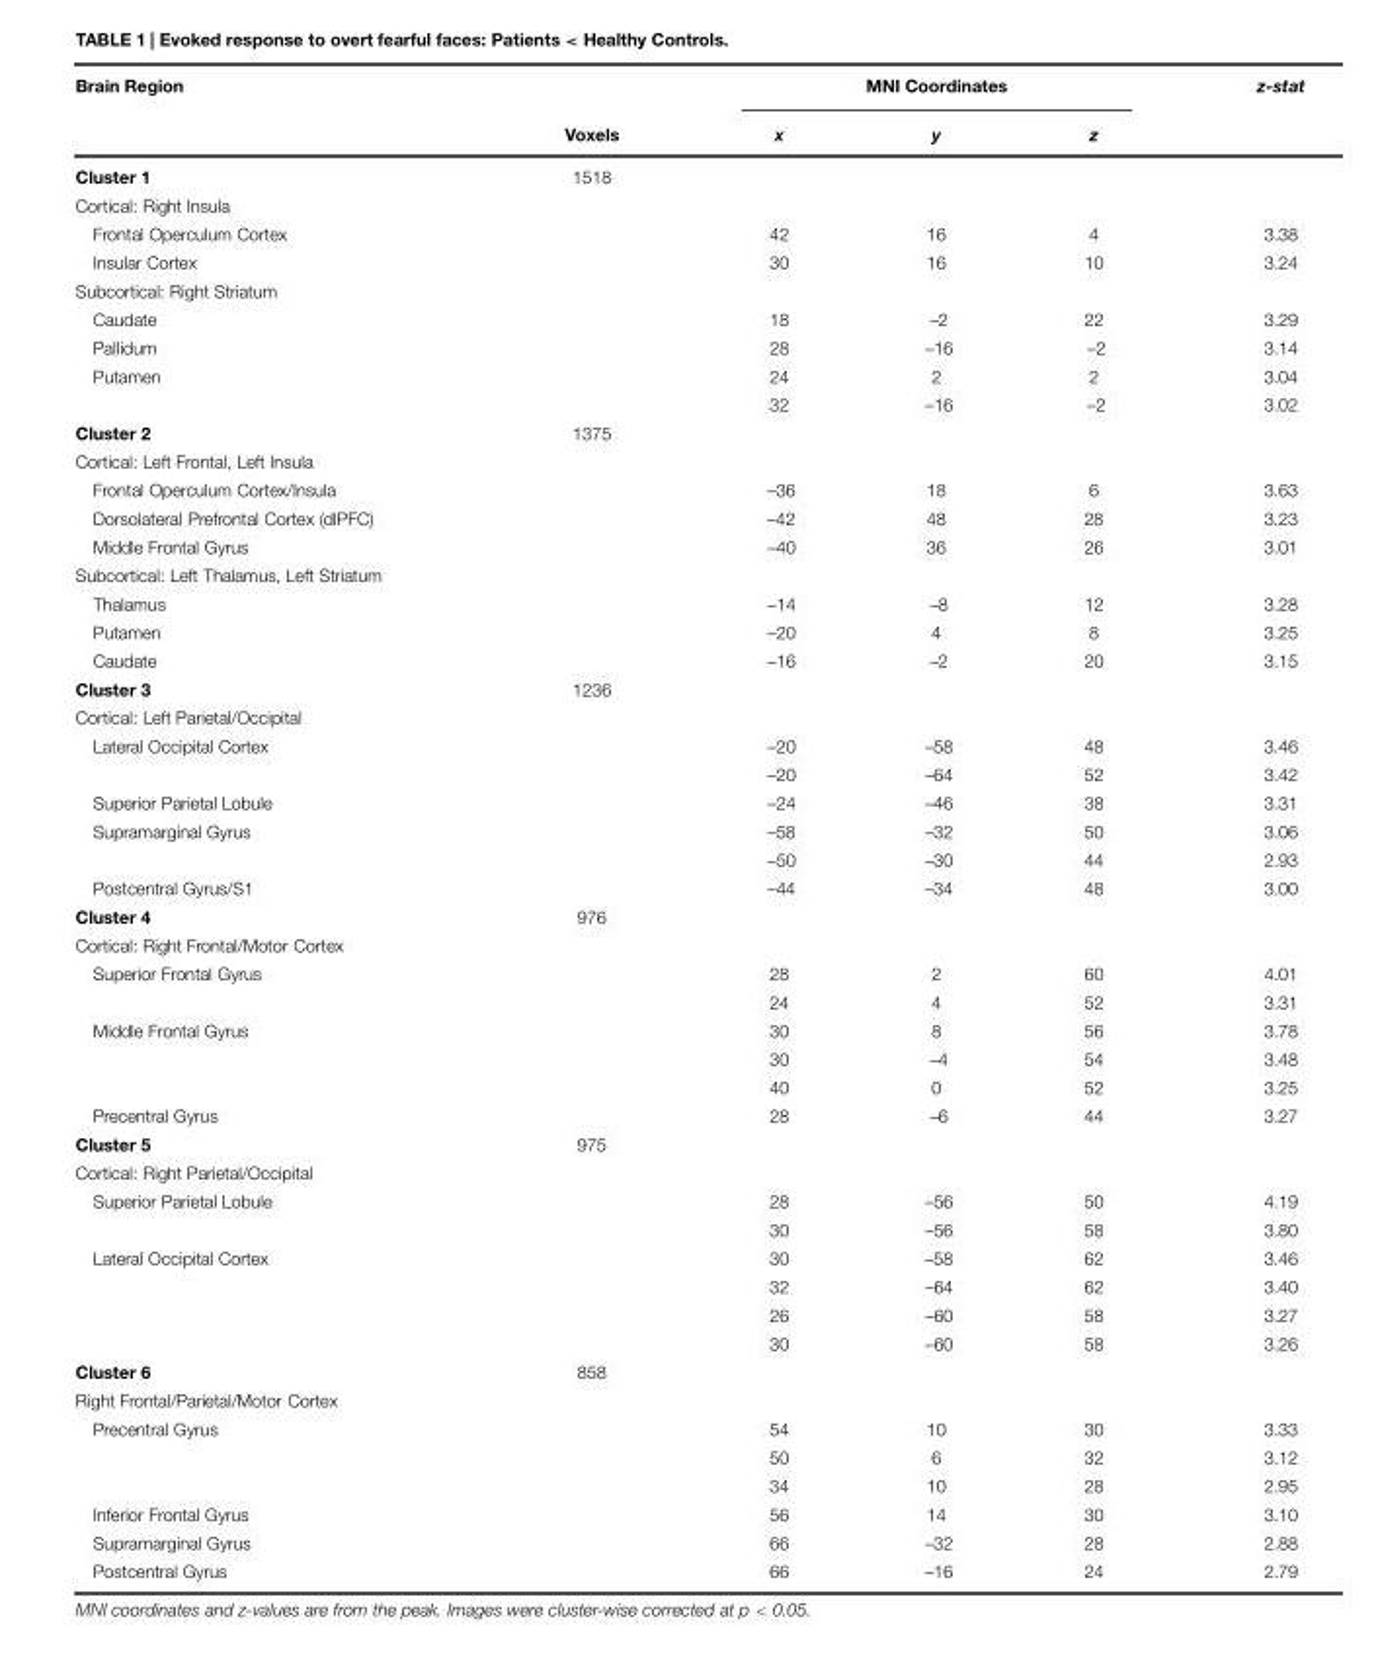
<table><thead><tr><td rowspan="2">Brain Region</td><td rowspan="2">Voxels</td><td colspan="3">MNI Coordinates</td><td rowspan="2">z-stat</td></tr><tr><td>x</td><td>y</td><td>z</td></tr></thead><tbody><tr><td>Cluster 1</td><td>1518</td><td></td><td></td><td></td><td></td></tr><tr><td colspan="6">Cortical: Right Insula</td></tr><tr><td>Frontal Operculum Cortex</td><td></td><td>42</td><td>16</td><td>4</td><td>3.38</td></tr><tr><td>Insular Cortex</td><td></td><td>30</td><td>16</td><td>10</td><td>3.24</td></tr><tr><td colspan="6">Subcortical: Right Striatum</td></tr><tr><td>Caudate</td><td></td><td>18</td><td>–2</td><td>22</td><td>3.29</td></tr><tr><td>Pallidum</td><td></td><td>28</td><td>–16</td><td>–2</td><td>3.14</td></tr><tr><td rowspan="2">Putamen</td><td></td><td>24</td><td>2</td><td>2</td><td>3.04</td></tr><tr><td></td><td>32</td><td>–16</td><td>–2</td><td>3.02</td></tr><tr><td>Cluster 2</td><td>1375</td><td></td><td></td><td></td><td></td></tr><tr><td colspan="6">Cortical: Left Frontal, Left Insula</td></tr><tr><td>Frontal Operculum Cortex/Insula</td><td></td><td>–36</td><td>18</td><td>6</td><td>3.63</td></tr><tr><td>Dorsolateral Prefrontal Cortex (dlPFC)</td><td></td><td>–42</td><td>48</td><td>28</td><td>3.23</td></tr><tr><td>Middle Frontal Gyrus</td><td></td><td>–40</td><td>36</td><td>26</td><td>3.01</td></tr><tr><td colspan="6">Subcortical: Left Thalamus, Left Striatum</td></tr><tr><td>Thalamus</td><td></td><td>–14</td><td>–8</td><td>12</td><td>3.28</td></tr><tr><td>Putamen</td><td></td><td>–20</td><td>4</td><td>8</td><td>3.25</td></tr><tr><td>Caudate</td><td></td><td>–16</td><td>–2</td><td>20</td><td>3.15</td></tr><tr><td>Cluster 3</td><td>1236</td><td></td><td></td><td></td><td></td></tr><tr><td colspan="6">Cortical: Left Parietal/Occipital</td></tr><tr><td rowspan="2">Lateral Occipital Cortex</td><td></td><td>–20</td><td>–58</td><td>48</td><td>3.46</td></tr><tr><td></td><td>–20</td><td>–64</td><td>52</td><td>3.42</td></tr><tr><td>Superior Parietal Lobule</td><td></td><td>–24</td><td>–46</td><td>38</td><td>3.31</td></tr><tr><td rowspan="2">Supramarginal Gyrus</td><td></td><td>–58</td><td>–32</td><td>50</td><td>3.06</td></tr><tr><td></td><td>–50</td><td>–30</td><td>44</td><td>2.93</td></tr><tr><td>Postcentral Gyrus/S1</td><td></td><td>–44</td><td>–34</td><td>48</td><td>3.00</td></tr><tr><td>Cluster 4</td><td>976</td><td></td><td></td><td></td><td></td></tr><tr><td colspan="6">Cortical: Right Frontal/Motor Cortex</td></tr><tr><td rowspan="2">Superior Frontal Gyrus</td><td></td><td>28</td><td>2</td><td>60</td><td>4.01</td></tr><tr><td></td><td>24</td><td>4</td><td>52</td><td>3.31</td></tr><tr><td rowspan="3">Middle Frontal Gyrus</td><td></td><td>30</td><td>8</td><td>56</td><td>3.78</td></tr><tr><td></td><td>30</td><td>–4</td><td>54</td><td>3.48</td></tr><tr><td></td><td>40</td><td>0</td><td>52</td><td>3.25</td></tr><tr><td>Precentral Gyrus</td><td></td><td>28</td><td>–6</td><td>44</td><td>3.27</td></tr><tr><td>Cluster 5</td><td>975</td><td></td><td></td><td></td><td></td></tr><tr><td colspan="6">Cortical: Right Parietal/Occipital</td></tr><tr><td rowspan="2">Superior Parietal Lobule</td><td></td><td>28</td><td>–56</td><td>50</td><td>4.19</td></tr><tr><td></td><td>30</td><td>–56</td><td>58</td><td>3.80</td></tr><tr><td rowspan="4">Lateral Occipital Cortex</td><td></td><td>30</td><td>–58</td><td>62</td><td>3.46</td></tr><tr><td></td><td>32</td><td>–64</td><td>62</td><td>3.40</td></tr><tr><td></td><td>26</td><td>–60</td><td>58</td><td>3.27</td></tr><tr><td></td><td>30</td><td>–60</td><td>58</td><td>3.26</td></tr><tr><td>Cluster 6</td><td>858</td><td></td><td></td><td></td><td></td></tr><tr><td colspan="6">Right Frontal/Parietal/Motor Cortex</td></tr><tr><td rowspan="3">Precentral Gyrus</td><td></td><td>54</td><td>10</td><td>30</td><td>3.33</td></tr><tr><td></td><td>50</td><td>6</td><td>32</td><td>3.12</td></tr><tr><td></td><td>34</td><td>10</td><td>28</td><td>2.95</td></tr><tr><td>Inferior Frontal Gyrus</td><td></td><td>56</td><td>14</td><td>30</td><td>3.10</td></tr><tr><td>Supramarginal Gyrus</td><td></td><td>66</td><td>–32</td><td>28</td><td>2.88</td></tr><tr><td>Postcentral Gyrus</td><td></td><td>66</td><td>–16</td><td>24</td><td>2.79</td></tr></tbody></table>